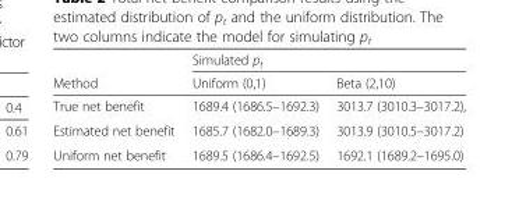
<table><thead><tr><td rowspan="2">Method</td><td colspan="2">Simulated pt</td></tr><tr><td>Uniform (0,1)</td><td>Beta (2,10)</td></tr></thead><tbody><tr><td>True net benefit</td><td>1689.4 (1686.5–1692.3)</td><td>3013.7 (3010.3–3017.2),</td></tr><tr><td>Estimated net benefit</td><td>1685.7 (1682.0–1689.3)</td><td>3013.9 (3010.5–3017.2)</td></tr><tr><td>Uniform net benefit</td><td>1689.5 (1686.4–1692.5)</td><td>1692.1 (1689.2–1695.0)</td></tr></tbody></table>